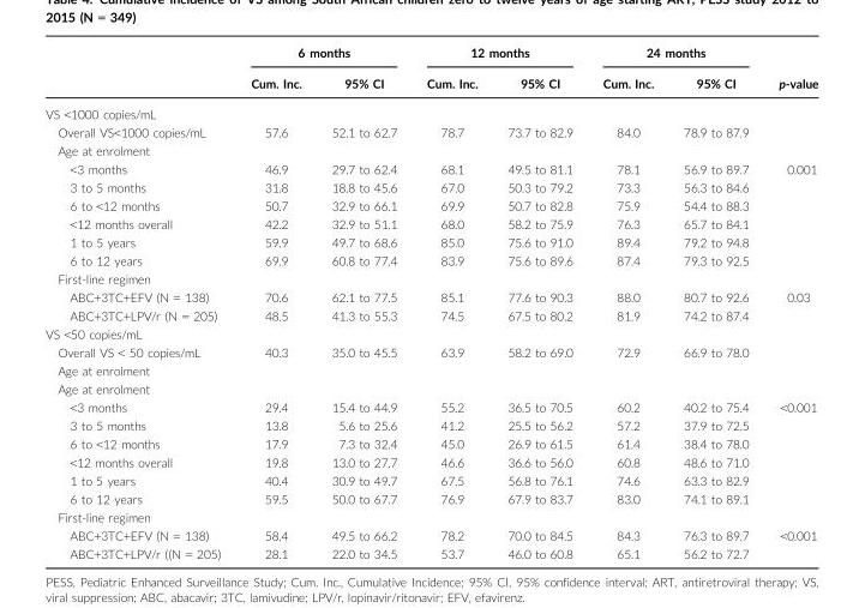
<table><thead><tr><td rowspan="2"></td><td colspan="2">6 months</td><td colspan="2">12 months</td><td colspan="2">24 months</td><td rowspan="2">p-value</td></tr><tr><td>Cum. Inc.</td><td>95% CI</td><td>Cum. Inc.</td><td>95% CI</td><td>Cum. Inc.</td><td>95% CI</td></tr></thead><tbody><tr><td colspan="8">VS &lt;1000 copies/mL</td></tr><tr><td>Overall VS&lt;1000 copies/mL</td><td>57.6</td><td>52.1 to 62.7</td><td>78.7</td><td>73.7 to 82.9</td><td>84.0</td><td>78.9 to 87.9</td><td></td></tr><tr><td colspan="8">Age at enrolment</td></tr><tr><td>&lt;3 months</td><td>46.9</td><td>29.7 to 62.4</td><td>68.1</td><td>49.5 to 81.1</td><td>78.1</td><td>56.9 to 89.7</td><td rowspan="6">0.001</td></tr><tr><td>3 to 5 months</td><td>31.8</td><td>18.8 to 45.6</td><td>67.0</td><td>50.3 to 79.2</td><td>73.3</td><td>56.3 to 84.6</td></tr><tr><td>6 to &lt;12 months</td><td>50.7</td><td>32.9 to 66.1</td><td>69.9</td><td>50.7 to 82.8</td><td>75.9</td><td>54.4 to 88.3</td></tr><tr><td>&lt;12 months overall</td><td>42.2</td><td>32.9 to 51.1</td><td>68.0</td><td>58.2 to 75.9</td><td>76.3</td><td>65.7 to 84.1</td></tr><tr><td>1 to 5 years</td><td>59.9</td><td>49.7 to 68.6</td><td>85.0</td><td>75.6 to 91.0</td><td>89.4</td><td>79.2 to 94.8</td></tr><tr><td>6 to 12 years</td><td>69.9</td><td>60.8 to 77.4</td><td>83.9</td><td>75.6 to 89.6</td><td>87.4</td><td>79.3 to 92.5</td></tr><tr><td colspan="8">First-line regimen</td></tr><tr><td>ABC+3TC+EFV (N = 138)</td><td>70.6</td><td>62.1 to 77.5</td><td>85.1</td><td>77.6 to 90.3</td><td>88.0</td><td>80.7 to 92.6</td><td rowspan="4">0.03</td></tr><tr><td>ABC+3TC+LPV/r (N = 205)</td><td>48.5</td><td>41.3 to 55.3</td><td>74.5</td><td>67.5 to 80.2</td><td>81.9</td><td>74.2 to 87.4</td></tr><tr><td colspan="7">VS &lt;50 copies/mL</td></tr><tr><td>Overall VS &lt; 50 copies/mL</td><td>40.3</td><td>35.0 to 45.5</td><td>63.9</td><td>58.2 to 69.0</td><td>72.9</td><td>66.9 to 78.0</td></tr><tr><td colspan="8">Age at enrolment</td></tr><tr><td colspan="8">Age at enrolment</td></tr><tr><td>&lt;3 months</td><td>29.4</td><td>15.4 to 44.9</td><td>55.2</td><td>36.5 to 70.5</td><td>60.2</td><td>40.2 to 75.4</td><td rowspan="6">&lt;0.001</td></tr><tr><td>3 to 5 months</td><td>13.8</td><td>5.6 to 25.6</td><td>41.2</td><td>25.5 to 56.2</td><td>57.2</td><td>37.9 to 72.5</td></tr><tr><td>6 to &lt;12 months</td><td>17.9</td><td>7.3 to 32.4</td><td>45.0</td><td>26.9 to 61.5</td><td>61.4</td><td>38.4 to 78.0</td></tr><tr><td>&lt;12 months overall</td><td>19.8</td><td>13.0 to 27.7</td><td>46.6</td><td>36.6 to 56.0</td><td>60.8</td><td>48.6 to 71.0</td></tr><tr><td>1 to 5 years</td><td>40.4</td><td>30.9 to 49.7</td><td>67.5</td><td>56.8 to 76.1</td><td>74.6</td><td>63.3 to 82.9</td></tr><tr><td>6 to 12 years</td><td>59.5</td><td>50.0 to 67.7</td><td>76.9</td><td>67.9 to 83.7</td><td>83.0</td><td>74.1 to 89.1</td></tr><tr><td colspan="8">First-line regimen</td></tr><tr><td>ABC+3TC+EFV (N = 138)</td><td>58.4</td><td>49.5 to 66.2</td><td>78.2</td><td>70.0 to 84.5</td><td>84.3</td><td>76.3 to 89.7</td><td rowspan="2">&lt;0.001</td></tr><tr><td>ABC+3TC+LPV/r ((N = 205)</td><td>28.1</td><td>22.0 to 34.5</td><td>53.7</td><td>46.0 to 60.8</td><td>65.1</td><td>56.2 to 72.7</td></tr></tbody></table>